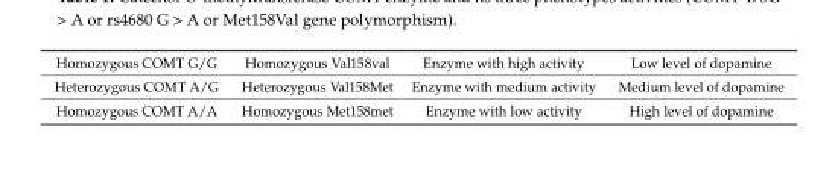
<table><tbody><tr><td>Homozygous COMT G/G</td><td>Homozygous Val158val</td><td>Enzyme with high activity</td><td>Low level of dopamine</td></tr><tr><td>Heterozygous COMT A/G</td><td>Heterozygous Val158Met</td><td>Enzyme with medium activity</td><td>Medium level of dopamine</td></tr><tr><td>Homozygous COMT A/A</td><td>Homozygous Met158met</td><td>Enzyme with low activity</td><td>High level of dopamine</td></tr></tbody></table>